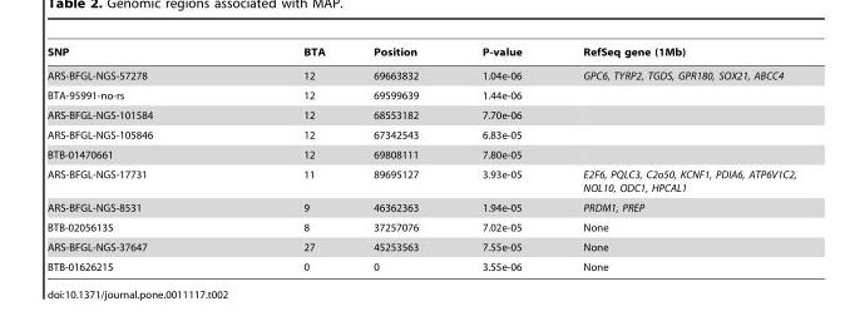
<table><thead><tr><td>SNP</td><td>BTA</td><td>Position</td><td>P-value</td><td>RefSeq gene (1Mb)</td></tr></thead><tbody><tr><td>ARS-BFGL-NGS-57278</td><td>12</td><td>69663832</td><td>1.04e-06</td><td>GPC6, TYRP2, TGDS, GPR180, SOX21, ABCC4</td></tr><tr><td>BTA-95991-no-rs</td><td>12</td><td>69599639</td><td>1.44e-06</td><td></td></tr><tr><td>ARS-BFGL-NGS-101584</td><td>12</td><td>68553182</td><td>7.70e-06</td><td></td></tr><tr><td>ARS-BFGL-NGS-105846</td><td>12</td><td>67342543</td><td>6.83e-05</td><td></td></tr><tr><td>BTB-01470661</td><td>12</td><td>69808111</td><td>7.80e-05</td><td></td></tr><tr><td>ARS-BFGL-NGS-17731</td><td>11</td><td>89695127</td><td>3.93e-05</td><td>E2F6, PQLC3, C2o50, KCNF1, PDIA6, ATP6V1C2, NOL10, ODC1, HPCAL1</td></tr><tr><td>ARS-BFGL-NGS-8531</td><td>9</td><td>46362363</td><td>1.94e-05</td><td>PRDM1, PREP</td></tr><tr><td>BTB-02056135</td><td>8</td><td>37257076</td><td>7.02e-05</td><td>None</td></tr><tr><td>ARS-BFGL-NGS-37647</td><td>27</td><td>45253563</td><td>7.55e-05</td><td>None</td></tr><tr><td>BTB-01626215</td><td>0</td><td>0</td><td>3.55e-06</td><td>None</td></tr></tbody></table>